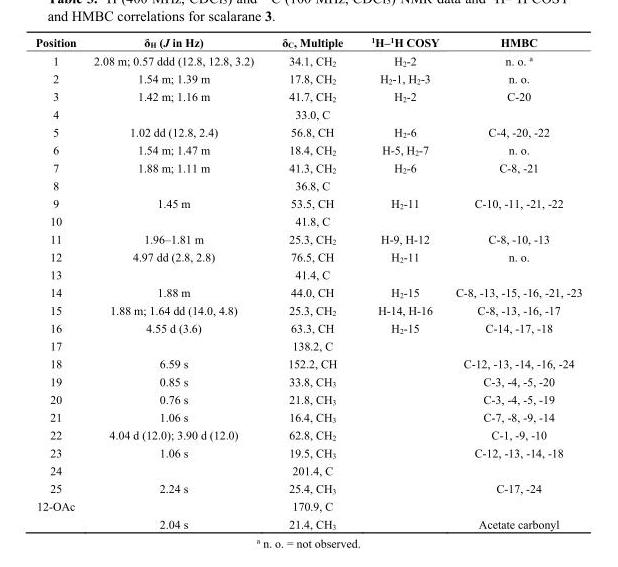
<table><thead><tr><td>Position</td><td>δ<sub>H</sub> (J in Hz)</td><td>δ<sub>C</sub>, Multiple</td><td><sup>1</sup>H–<sup>1</sup>H COSY</td><td>HMBC</td></tr></thead><tbody><tr><td>1</td><td>2.08 m; 0.57 ddd (12.8, 12.8, 3.2)</td><td>34.1, CH<sub>2</sub></td><td>H<sub>2</sub>-2</td><td>n. o. <sup>a</sup></td></tr><tr><td>2</td><td>1.54 m; 1.39 m</td><td>17.8, CH<sub>2</sub></td><td>H<sub>2</sub>-1, H<sub>2</sub>-3</td><td>n. o.</td></tr><tr><td>3</td><td>1.42 m; 1.16 m</td><td>41.7, CH<sub>2</sub></td><td>H<sub>2</sub>-2</td><td>C-20</td></tr><tr><td>4</td><td></td><td>33.0, C</td><td></td><td></td></tr><tr><td>5</td><td>1.02 dd (12.8, 2.4)</td><td>56.8, CH</td><td>H<sub>2</sub>-6</td><td>C-4, -20, -22</td></tr><tr><td>6</td><td>1.54 m; 1.47 m</td><td>18.4, CH<sub>2</sub></td><td>H-5, H<sub>2</sub>-7</td><td>n. o.</td></tr><tr><td>7</td><td>1.88 m; 1.11 m</td><td>41.3, CH<sub>2</sub></td><td>H<sub>2</sub>-6</td><td>C-8, -21</td></tr><tr><td>8</td><td></td><td>36.8, C</td><td></td><td></td></tr><tr><td>9</td><td>1.45 m</td><td>53.5, CH</td><td>H<sub>2</sub>-11</td><td>C-10, -11, -21, -22</td></tr><tr><td>10</td><td></td><td>41.8, C</td><td></td><td></td></tr><tr><td>11</td><td>1.96–1.81 m</td><td>25.3, CH<sub>2</sub></td><td>H-9, H-12</td><td>C-8, -10, -13</td></tr><tr><td>12</td><td>4.97 dd (2.8, 2.8)</td><td>76.5, CH</td><td>H<sub>2</sub>-11</td><td>n. o.</td></tr><tr><td>13</td><td></td><td>41.4, C</td><td></td><td></td></tr><tr><td>14</td><td>1.88 m</td><td>44.0, CH</td><td>H<sub>2</sub>-15</td><td>C-8, -13, -15, -16, -21, -23</td></tr><tr><td>15</td><td>1.88 m; 1.64 dd (14.0, 4.8)</td><td>25.3, CH<sub>2</sub></td><td>H-14, H-16</td><td>C-8, -13, -16, -17</td></tr><tr><td>16</td><td>4.55 d (3.6)</td><td>63.3, CH</td><td>H<sub>2</sub>-15</td><td>C-14, -17, -18</td></tr><tr><td>17</td><td></td><td>138.2, C</td><td></td><td></td></tr><tr><td>18</td><td>6.59 s</td><td>152.2, CH</td><td></td><td>C-12, -13, -14, -16, -24</td></tr><tr><td>19</td><td>0.85 s</td><td>33.8, CH<sub>3</sub></td><td></td><td>C-3, -4, -5, -20</td></tr><tr><td>20</td><td>0.76 s</td><td>21.8, CH<sub>3</sub></td><td></td><td>C-3, -4, -5, -19</td></tr><tr><td>21</td><td>1.06 s</td><td>16.4, CH<sub>3</sub></td><td></td><td>C-7, -8, -9, -14</td></tr><tr><td>22</td><td>4.04 d (12.0); 3.90 d (12.0)</td><td>62.8, CH<sub>2</sub></td><td></td><td>C-1, -9, -10</td></tr><tr><td>23</td><td>1.06 s</td><td>19.5, CH<sub>3</sub></td><td></td><td>C-12, -13, -14, -18</td></tr><tr><td>24</td><td></td><td>201.4, C</td><td></td><td></td></tr><tr><td>25</td><td>2.24 s</td><td>25.4, CH<sub>3</sub></td><td></td><td>C-17, -24</td></tr><tr><td rowspan="2">12-OAc</td><td></td><td>170.9, C</td><td></td><td></td></tr><tr><td>2.04 s</td><td>21.4, CH<sub>3</sub></td><td></td><td>Acetate carbonyl</td></tr></tbody></table>